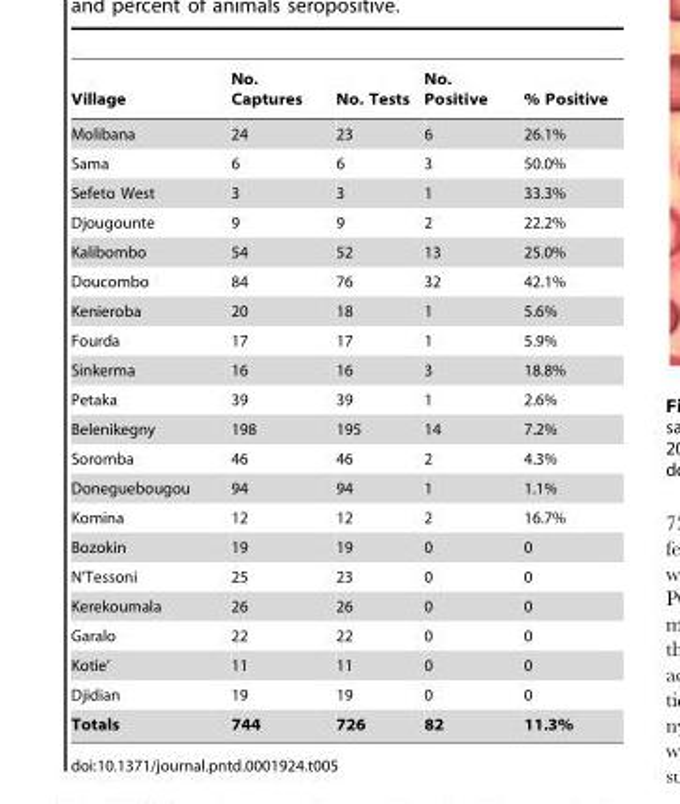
<table><thead><tr><td>Village</td><td>No. Captures</td><td>No. Tests</td><td>No. Positive</td><td>% Positive</td></tr></thead><tbody><tr><td>Molibana</td><td>24</td><td>23</td><td>6</td><td>26.1%</td></tr><tr><td>Sama</td><td>6</td><td>6</td><td>3</td><td>50.0%</td></tr><tr><td>Sefeto West</td><td>3</td><td>3</td><td>1</td><td>33.3%</td></tr><tr><td>Djougounte</td><td>9</td><td>9</td><td>2</td><td>22.2%</td></tr><tr><td>Kalibombo</td><td>54</td><td>52</td><td>13</td><td>25.0%</td></tr><tr><td>Doucombo</td><td>84</td><td>76</td><td>32</td><td>42.1%</td></tr><tr><td>Kenieroba</td><td>20</td><td>18</td><td>1</td><td>5.6%</td></tr><tr><td>Fourda</td><td>17</td><td>17</td><td>1</td><td>5.9%</td></tr><tr><td>Sinkerma</td><td>16</td><td>16</td><td>3</td><td>18.8%</td></tr><tr><td>Petaka</td><td>39</td><td>39</td><td>1</td><td>2.6%</td></tr><tr><td>Belenikegny</td><td>198</td><td>195</td><td>14</td><td>7.2%</td></tr><tr><td>Soromba</td><td>46</td><td>46</td><td>2</td><td>4.3%</td></tr><tr><td>Doneguebougou</td><td>94</td><td>94</td><td>1</td><td>1.1%</td></tr><tr><td>Komina</td><td>12</td><td>12</td><td>2</td><td>16.7%</td></tr><tr><td>Bozokin</td><td>19</td><td>19</td><td>0</td><td>0</td></tr><tr><td>N’Tessoni</td><td>25</td><td>23</td><td>0</td><td>0</td></tr><tr><td>Kerekoumala</td><td>26</td><td>26</td><td>0</td><td>0</td></tr><tr><td>Garalo</td><td>22</td><td>22</td><td>0</td><td>0</td></tr><tr><td>Kotie’</td><td>11</td><td>11</td><td>0</td><td>0</td></tr><tr><td>Djidian</td><td>19</td><td>19</td><td>0</td><td>0</td></tr><tr><td>Totals</td><td>744</td><td>726</td><td>82</td><td>11.3%</td></tr></tbody></table>